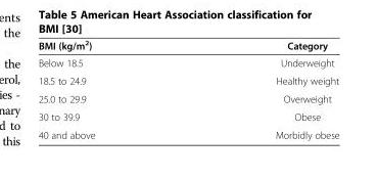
<table><thead><tr><td>BMI (kg/m<sup>2</sup>)</td><td>Category</td></tr></thead><tbody><tr><td>Below 18.5</td><td>Underweight</td></tr><tr><td>18.5 to 24.9</td><td>Healthy weight</td></tr><tr><td>25.0 to 29.9</td><td>Overweight</td></tr><tr><td>30 to 39.9</td><td>Obese</td></tr><tr><td>40 and above</td><td>Morbidly obese</td></tr></tbody></table>